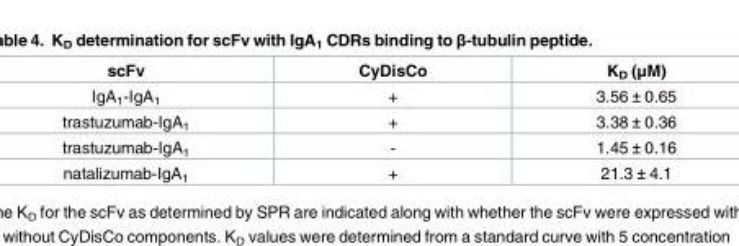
<table><thead><tr><td>scFv</td><td>CyDisCo</td><td>K<sub>D</sub> (μM)</td></tr></thead><tbody><tr><td>IgA<sub>1</sub>-IgA<sub>1</sub></td><td>+</td><td>3.56 ± 0.65</td></tr><tr><td>trastuzumab-IgA<sub>1</sub></td><td>+</td><td>3.38 ± 0.36</td></tr><tr><td>trastuzumab-IgA<sub>1</sub></td><td>-</td><td>1.45 ± 0.16</td></tr><tr><td>natalizumab-IgA<sub>1</sub></td><td>+</td><td>21.3 ± 4.1</td></tr></tbody></table>